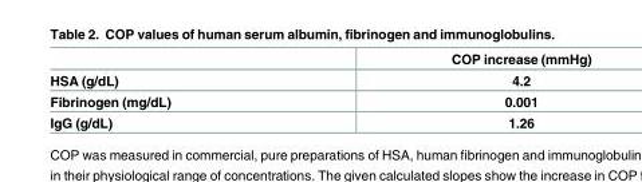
<table><thead><tr><td></td><td>COP increase (mmHg)</td></tr></thead><tbody><tr><td>HSA (g/dL)</td><td>4.2</td></tr><tr><td>Fibrinogen (mg/dL)</td><td>0.001</td></tr><tr><td>IgG (g/dL)</td><td>1.26</td></tr></tbody></table>